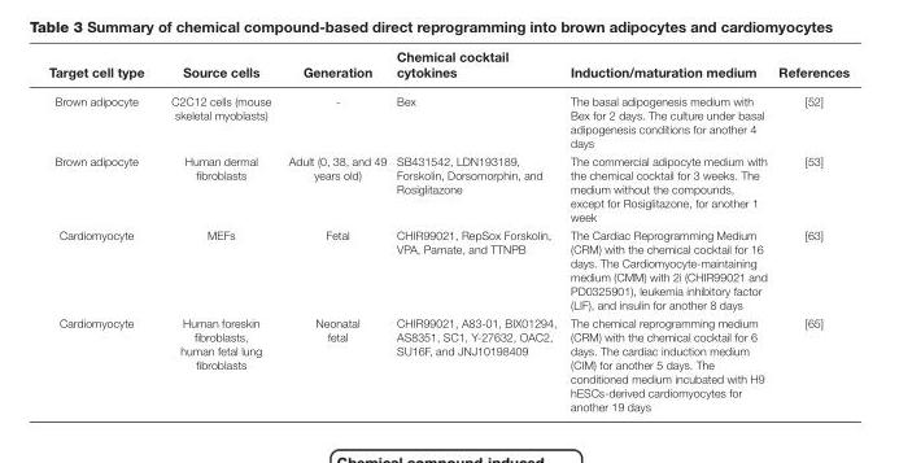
<table><thead><tr><td>Target cell type</td><td>Source cells</td><td>Generation</td><td>Chemical cocktail cytokines</td><td>Induction/maturation medium</td><td>References</td></tr></thead><tbody><tr><td>Brown adipocyte</td><td>C2C12 cells (mouse skeletal myoblasts)</td><td>-</td><td>Bex</td><td>The basal adipogenesis medium with Bex for 2 days. The culture under basal adipogenesis conditions for another 4 days</td><td>[52]</td></tr><tr><td>Brown adipocyte</td><td>Human dermal fibroblasts</td><td>Adult (0, 38, and 49 years old)</td><td>SB431542, LDN193189, Forskolin, Dorsomorphin, and Rosiglitazone</td><td>The commercial adipocyte medium with the chemical cocktail for 3 weeks. The medium without the compounds, except for Rosiglitazone, for another 1 week</td><td>[53]</td></tr><tr><td>Cardiomyocyte</td><td>MEFs</td><td>Fetal</td><td>CHIR99021, RepSox Forskolin, VPA, Parnate, and TTNPB</td><td>The Cardiac Reprogramming Medium (CRM) with the chemical cocktail for 16 days. The Cardiomyocyte-maintaining medium (CMM) with 2i (CHIR99021 and PD0325901), leukemia inhibitory factor (LIF), and insulin for another 8 days</td><td>[63]</td></tr><tr><td>Cardiomyocyte</td><td>Human foreskin fibroblasts, human fetal lung fibroblasts</td><td>Neonatal fetal</td><td>CHIR99021, A83-01, BIX01294, AS8351, SC1, Y-27632, OAC2, SU16F, and JNJ10198409</td><td>The chemical reprogramming medium (CRM) with the chemical cocktail for 6 days. The cardiac induction medium (CIM) for another 5 days. The conditioned medium incubated with H9 hESCs-derived cardiomyocytes for another 19 days</td><td>[65]</td></tr></tbody></table>